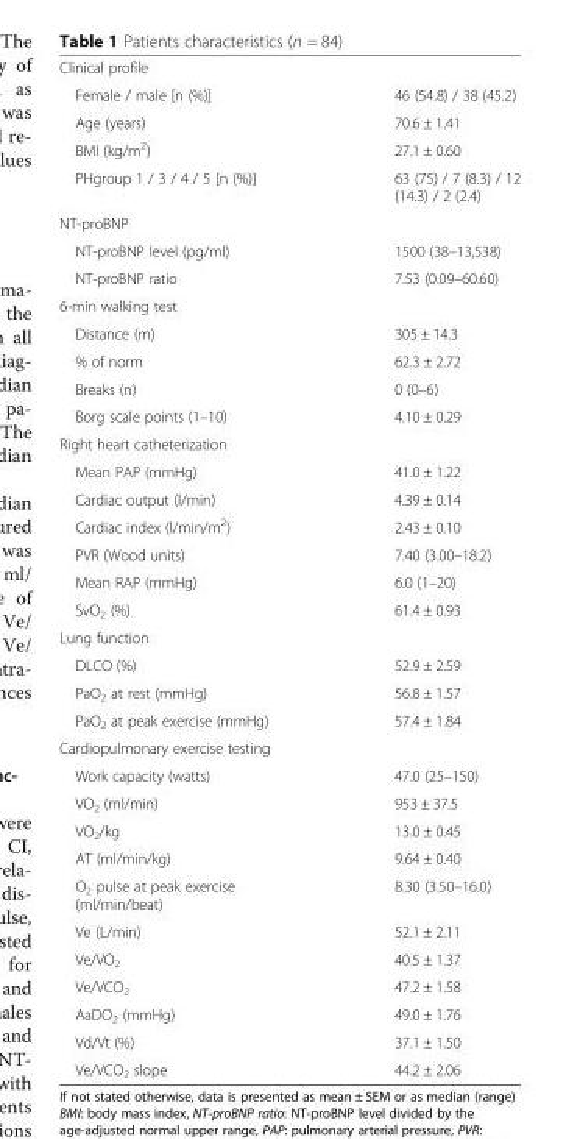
<table><tbody><tr><td colspan="2">Clinical profile</td></tr><tr><td>Female / male [n (%)]</td><td>46 (54.8) / 38 (45.2)</td></tr><tr><td>Age (years)</td><td>70.6 ± 1.41</td></tr><tr><td>BMI (kg/m<sup>2</sup>)</td><td>27.1 ± 0.60</td></tr><tr><td>PHgroup 1 / 3 / 4 / 5 [n (%)]</td><td>63 (75) / 7 (8.3) / 12 (14.3) / 2 (2.4)</td></tr><tr><td colspan="2">NT-proBNP</td></tr><tr><td>NT-proBNP level (pg/ml)</td><td>1500 (38–13,538)</td></tr><tr><td>NT-proBNP ratio</td><td>7.53 (0.09–60.60)</td></tr><tr><td colspan="2">6-min walking test</td></tr><tr><td>Distance (m)</td><td>305 ± 14.3</td></tr><tr><td>% of norm</td><td>62.3 ± 2.72</td></tr><tr><td>Breaks (n)</td><td>0 (0–6)</td></tr><tr><td>Borg scale points (1–10)</td><td>4.10 ± 0.29</td></tr><tr><td colspan="2">Right heart catheterization</td></tr><tr><td>Mean PAP (mmHg)</td><td>41.0 ± 1.22</td></tr><tr><td>Cardiac output (l/min)</td><td>4.39 ± 0.14</td></tr><tr><td>Cardiac index (l/min/m<sup>2</sup>)</td><td>2.43 ± 0.10</td></tr><tr><td>PVR (Wood units)</td><td>7.40 (3.00–18.2)</td></tr><tr><td>Mean RAP (mmHg)</td><td>6.0 (1–20)</td></tr><tr><td>SvO<sub>2</sub> (%)</td><td>61.4 ± 0.93</td></tr><tr><td colspan="2">Lung function</td></tr><tr><td>DLCO (%)</td><td>52.9 ± 2.59</td></tr><tr><td>PaO<sub>2</sub> at rest (mmHg)</td><td>56.8 ± 1.57</td></tr><tr><td>PaO<sub>2</sub> at peak exercise (mmHg)</td><td>57.4 ± 1.84</td></tr><tr><td colspan="2">Cardiopulmonary exercise testing</td></tr><tr><td>Work capacity (watts)</td><td>47.0 (25–150)</td></tr><tr><td>VO<sub>2</sub> (ml/min)</td><td>953 ± 37.5</td></tr><tr><td>VO<sub>2</sub>/kg</td><td>13.0 ± 0.45</td></tr><tr><td>AT (ml/min/kg)</td><td>9.64 ± 0.40</td></tr><tr><td>O<sub>2</sub> pulse at peak exercise (ml/min/beat)</td><td>8.30 (3.50–16.0)</td></tr><tr><td>Ve (L/min)</td><td>52.1 ± 2.11</td></tr><tr><td>Ve/VO<sub>2</sub></td><td>40.5 ± 1.37</td></tr><tr><td>Ve/VCO<sub>2</sub></td><td>47.2 ± 1.58</td></tr><tr><td>AaDO<sub>2</sub> (mmHg)</td><td>49.0 ± 1.76</td></tr><tr><td>Vd/Vt (%)</td><td>37.1 ± 1.50</td></tr><tr><td>Ve/VCO<sub>2</sub> slope</td><td>44.2 ± 2.06</td></tr></tbody></table>